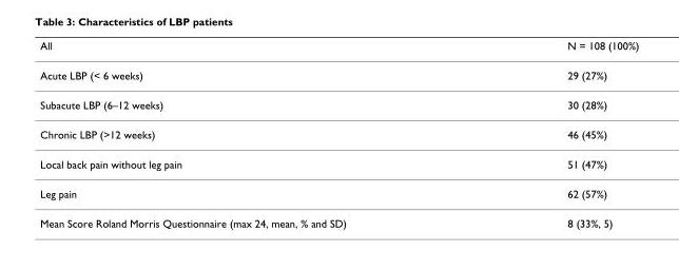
<table><thead><tr><td>All</td><td>N = 108 (100%)</td></tr></thead><tbody><tr><td>Acute LBP (&lt; 6 weeks)</td><td>29 (27%)</td></tr><tr><td>Subacute LBP (6–12 weeks)</td><td>30 (28%)</td></tr><tr><td>Chronic LBP (&gt;12 weeks)</td><td>46 (45%)</td></tr><tr><td>Local back pain without leg pain</td><td>51 (47%)</td></tr><tr><td>Leg pain</td><td>62 (57%)</td></tr><tr><td>Mean Score Roland Morris Questionnaire (max 24, mean, % and SD)</td><td>8 (33%, 5)</td></tr></tbody></table>